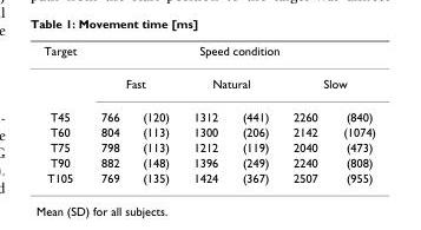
<table><thead><tr><td rowspan="3">Target T45</td><td colspan="6">Speed condition</td></tr><tr><td colspan="2">Fast</td><td colspan="2">Natural</td><td colspan="2">Slow</td></tr><tr><td>766</td><td>(120)</td><td>1312</td><td>(441)</td><td>2260</td><td>(840)</td></tr></thead><tbody><tr><td>T60</td><td>804</td><td>(113)</td><td>1300</td><td>(206)</td><td>2142</td><td>(1074)</td></tr><tr><td>T75</td><td>798</td><td>(113)</td><td>1212</td><td>(119)</td><td>2040</td><td>(473)</td></tr><tr><td>T90</td><td>882</td><td>(148)</td><td>1396</td><td>(249)</td><td>2240</td><td>(808)</td></tr><tr><td>T105</td><td>769</td><td>(135)</td><td>1424</td><td>(367)</td><td>2507</td><td>(955)</td></tr></tbody></table>